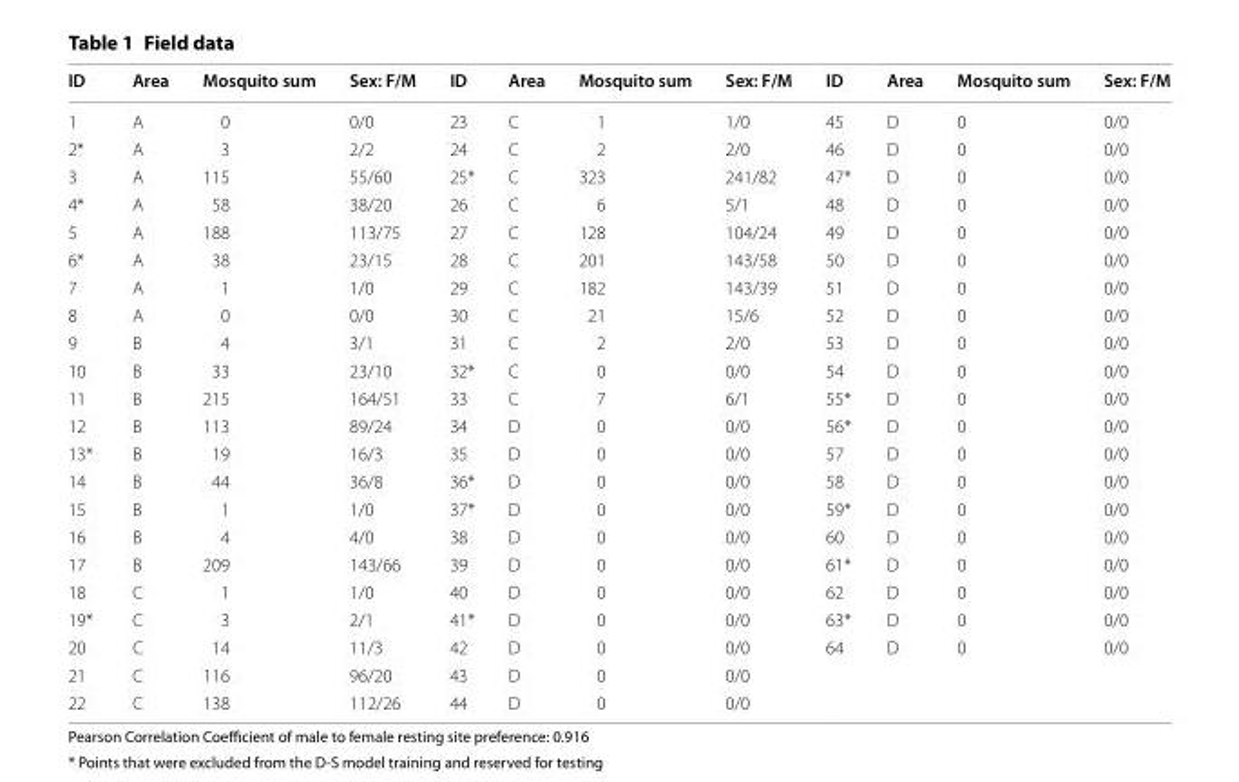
<table><thead><tr><td>ID</td><td>Area</td><td>Mosquito sum</td><td>Sex: F/M</td><td>ID</td><td>Area</td><td>Mosquito sum</td><td>Sex: F/M</td><td>ID</td><td>Area</td><td>Mosquito sum</td><td>Sex: F/M</td></tr></thead><tbody><tr><td>1</td><td>A</td><td>0</td><td>0/0</td><td>23</td><td>C</td><td>1</td><td>1/0</td><td>45</td><td>D</td><td>0</td><td>0/0</td></tr><tr><td>2*</td><td>A</td><td>3</td><td>2/2</td><td>24</td><td>C</td><td>2</td><td>2/0</td><td>46</td><td>D</td><td>0</td><td>0/0</td></tr><tr><td>3</td><td>A</td><td>115</td><td>55/60</td><td>25*</td><td>C</td><td>323</td><td>241/82</td><td>47*</td><td>D</td><td>0</td><td>0/0</td></tr><tr><td>4*</td><td>A</td><td>58</td><td>38/20</td><td>26</td><td>C</td><td>6</td><td>5/1</td><td>48</td><td>D</td><td>0</td><td>0/0</td></tr><tr><td>5</td><td>A</td><td>188</td><td>113/75</td><td>27</td><td>C</td><td>128</td><td>104/24</td><td>49</td><td>D</td><td>0</td><td>0/0</td></tr><tr><td>6*</td><td>A</td><td>38</td><td>23/15</td><td>28</td><td>C</td><td>201</td><td>143/58</td><td>50</td><td>D</td><td>0</td><td>0/0</td></tr><tr><td>7</td><td>A</td><td>1</td><td>1/0</td><td>29</td><td>C</td><td>182</td><td>143/39</td><td>51</td><td>D</td><td>0</td><td>0/0</td></tr><tr><td>8</td><td>A</td><td>0</td><td>0/0</td><td>30</td><td>C</td><td>21</td><td>15/6</td><td>52</td><td>D</td><td>0</td><td>0/0</td></tr><tr><td>9</td><td>B</td><td>4</td><td>3/1</td><td>31</td><td>C</td><td>2</td><td>2/0</td><td>53</td><td>D</td><td>0</td><td>0/0</td></tr><tr><td>10</td><td>B</td><td>33</td><td>23/10</td><td>32*</td><td>C</td><td>0</td><td>0/0</td><td>54</td><td>D</td><td>0</td><td>0/0</td></tr><tr><td>11</td><td>B</td><td>215</td><td>164/51</td><td>33</td><td>C</td><td>7</td><td>6/1</td><td>55*</td><td>D</td><td>0</td><td>0/0</td></tr><tr><td>12</td><td>B</td><td>113</td><td>89/24</td><td>34</td><td>D</td><td>0</td><td>0/0</td><td>56*</td><td>D</td><td>0</td><td>0/0</td></tr><tr><td>13*</td><td>B</td><td>19</td><td>16/3</td><td>35</td><td>D</td><td>0</td><td>0/0</td><td>57</td><td>D</td><td>0</td><td>0/0</td></tr><tr><td>14</td><td>B</td><td>44</td><td>36/8</td><td>36*</td><td>D</td><td>0</td><td>0/0</td><td>58</td><td>D</td><td>0</td><td>0/0</td></tr><tr><td>15</td><td>B</td><td>1</td><td>1/0</td><td>37*</td><td>D</td><td>0</td><td>0/0</td><td>59*</td><td>D</td><td>0</td><td>0/0</td></tr><tr><td>16</td><td>B</td><td>4</td><td>4/0</td><td>38</td><td>D</td><td>0</td><td>0/0</td><td>60</td><td>D</td><td>0</td><td>0/0</td></tr><tr><td>17</td><td>B</td><td>209</td><td>143/66</td><td>39</td><td>D</td><td>0</td><td>0/0</td><td>61*</td><td>D</td><td>0</td><td>0/0</td></tr><tr><td>18</td><td>C</td><td>1</td><td>1/0</td><td>40</td><td>D</td><td>0</td><td>0/0</td><td>62</td><td>D</td><td>0</td><td>0/0</td></tr><tr><td>19*</td><td>C</td><td>3</td><td>2/1</td><td>41*</td><td>D</td><td>0</td><td>0/0</td><td>63*</td><td>D</td><td>0</td><td>0/0</td></tr><tr><td>20</td><td>C</td><td>14</td><td>11/3</td><td>42</td><td>D</td><td>0</td><td>0/0</td><td>64</td><td>D</td><td>0</td><td>0/0</td></tr><tr><td>21</td><td>C</td><td>116</td><td>96/20</td><td>43</td><td>D</td><td>0</td><td>0/0</td><td></td><td></td><td></td><td></td></tr><tr><td>22</td><td>C</td><td>138</td><td>112/26</td><td>44</td><td>D</td><td>0</td><td>0/0</td><td></td><td></td><td></td><td></td></tr></tbody></table>